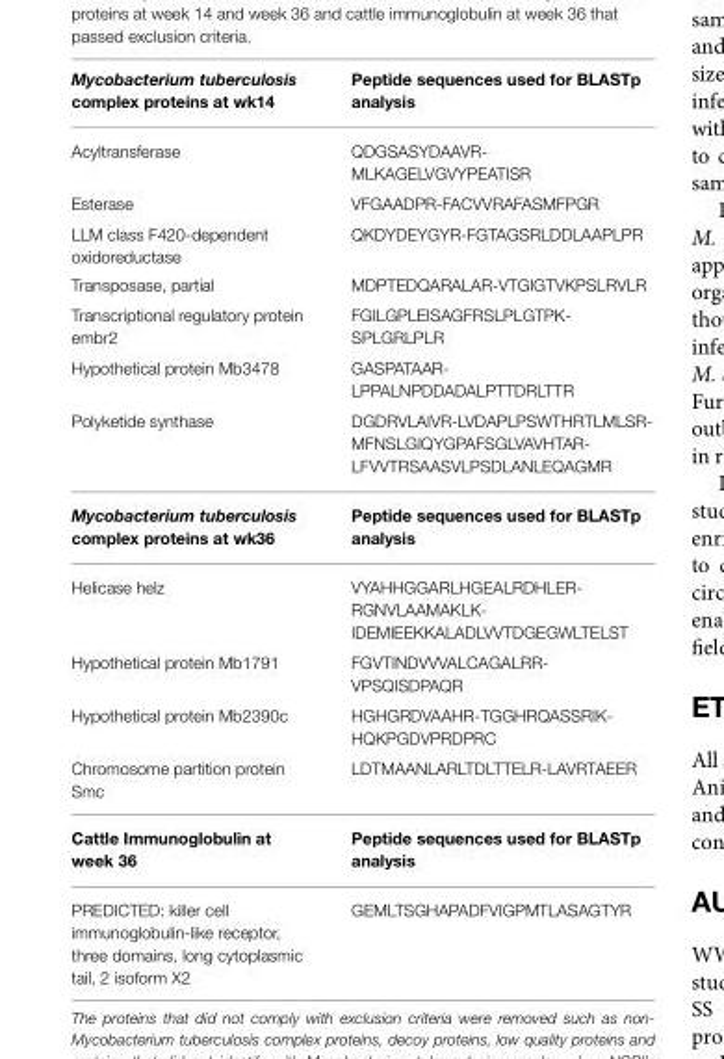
<table><thead><tr><td>Mycobacterium tuberculosis complex proteins at wk14</td><td>Peptide sequences used for BLASTp analysis</td></tr></thead><tbody><tr><td>Acyltransferase</td><td>QDGSASYDAAVR- MLKAGELVGVYPEATISR</td></tr><tr><td>Esterase</td><td>VFGAADPR-FACVVRAFASMFPGR</td></tr><tr><td>LLM class F420-dependent oxidoreductase</td><td>QKDYDEYGYR-FGTAGSRLDDLAAPLPR</td></tr><tr><td>Transposase, partial</td><td>MDPTEDQARALAR-VTGIGTVKPSLRVLR</td></tr><tr><td>Transcriptional regulatory protein embr2</td><td>FGILGPLEISAGFRSLPLGTPK- SPLGRLPLR</td></tr><tr><td>Hypothetical protein Mb3478</td><td>GASPATAAR- LPPALNPDDADALPTTDRLTTR</td></tr><tr><td>Polyketide synthase</td><td>DGDRVLAIVR-LVDAPLPSWTHRTLMLSR- MFNSLGIQYGPAFSGLVAVHTAR- LFVVTRSAASVLPSDLANLEQAGMR</td></tr><tr><td>Mycobacterium tuberculosis complex proteins at wk36</td><td>Peptide sequences used for BLASTp analysis</td></tr><tr><td>Helicase helz</td><td>VYAHHGGARLHGEALRDHLER- RGNVLAAMAKLK- IDEMIEEKKALADLVVTDGEGWLTELST</td></tr><tr><td>Hypothetical protein Mb1791</td><td>FGVTINDVVVALCAGALRR- VPSQISDPAQR</td></tr><tr><td>Hypothetical protein Mb2390c</td><td>HGHGRDVAAHR-TGGHRQASSRIK- HQKPGDVPRDPRC</td></tr><tr><td>Chromosome partition protein Smc</td><td>LDTMAANLARLTDLTTELR-LAVRTAEER</td></tr><tr><td>Cattle Immunoglobulin at week 36</td><td>Peptide sequences used for BLASTp analysis</td></tr><tr><td>PREDICTED: killer cell immunoglobulin-like receptor, three domains, long cytoplasmic tail, 2 isoform X2</td><td>GEMLTSGHAPADFVIGPMTLASAGTYR</td></tr></tbody></table>